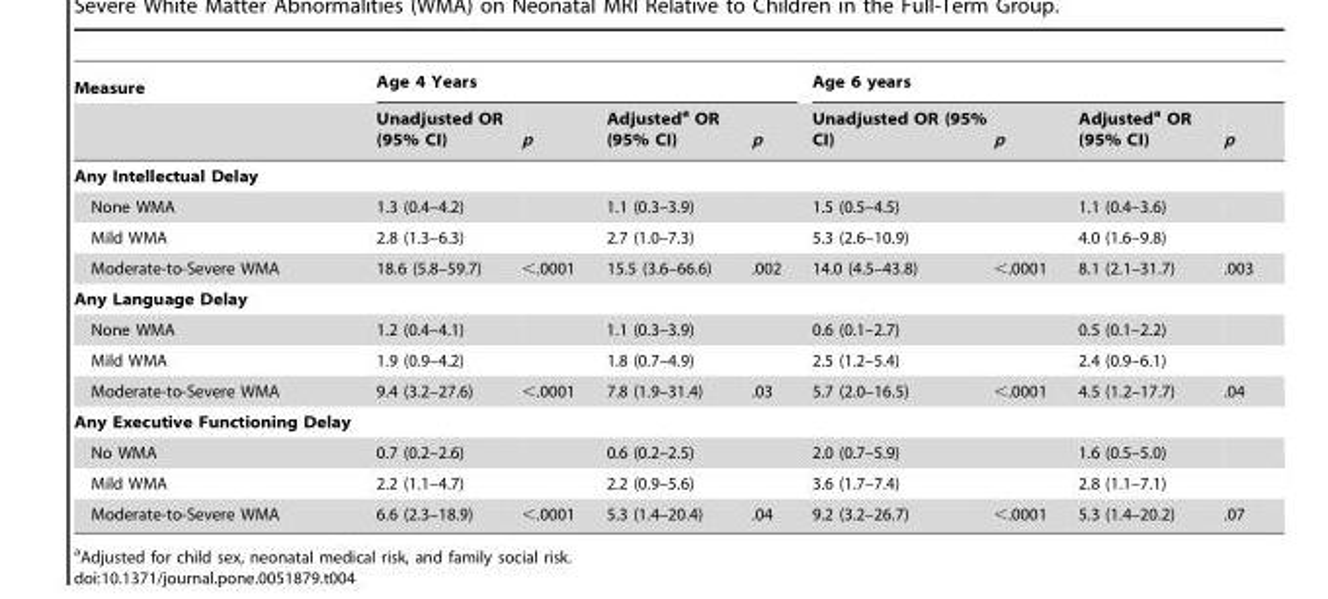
<table><thead><tr><td rowspan="2">Measure</td><td colspan="4">Age 4 Years</td><td colspan="4">Age 6 years</td></tr><tr><td>Unadjusted OR (95% CI)</td><td>p</td><td>Adjusted<sup>a</sup> OR (95% CI)</td><td>p</td><td>Unadjusted OR (95% CI)</td><td>p</td><td>Adjusted<sup>a</sup> OR (95% CI)</td><td>p</td></tr></thead><tbody><tr><td colspan="9">Any Intellectual Delay</td></tr><tr><td>None WMA</td><td>1.3 (0.4–4.2)</td><td></td><td>1.1 (0.3–3.9)</td><td></td><td>1.5 (0.5–4.5)</td><td></td><td>1.1 (0.4–3.6)</td><td></td></tr><tr><td>Mild WMA</td><td>2.8 (1.3–6.3)</td><td></td><td>2.7 (1.0–7.3)</td><td></td><td>5.3 (2.6–10.9)</td><td></td><td>4.0 (1.6–9.8)</td><td></td></tr><tr><td>Moderate-to-Severe WMA</td><td>18.6 (5.8–59.7)</td><td>&lt;.0001</td><td>15.5 (3.6–66.6)</td><td>.002</td><td>14.0 (4.5–43.8)</td><td>&lt;.0001</td><td>8.1 (2.1–31.7)</td><td>.003</td></tr><tr><td colspan="9">Any Language Delay</td></tr><tr><td>None WMA</td><td>1.2 (0.4–4.1)</td><td></td><td>1.1 (0.3–3.9)</td><td></td><td>0.6 (0.1–2.7)</td><td></td><td>0.5 (0.1–2.2)</td><td></td></tr><tr><td>Mild WMA</td><td>1.9 (0.9–4.2)</td><td></td><td>1.8 (0.7–4.9)</td><td></td><td>2.5 (1.2–5.4)</td><td></td><td>2.4 (0.9–6.1)</td><td></td></tr><tr><td>Moderate-to-Severe WMA</td><td>9.4 (3.2–27.6)</td><td>&lt;.0001</td><td>7.8 (1.9–31.4)</td><td>.03</td><td>5.7 (2.0–16.5)</td><td>&lt;.0001</td><td>4.5 (1.2–17.7)</td><td>.04</td></tr><tr><td colspan="9">Any Executive Functioning Delay</td></tr><tr><td>No WMA</td><td>0.7 (0.2–2.6)</td><td></td><td>0.6 (0.2–2.5)</td><td></td><td>2.0 (0.7–5.9)</td><td></td><td>1.6 (0.5–5.0)</td><td></td></tr><tr><td>Mild WMA</td><td>2.2 (1.1–4.7)</td><td></td><td>2.2 (0.9–5.6)</td><td></td><td>3.6 (1.7–7.4)</td><td></td><td>2.8 (1.1–7.1)</td><td></td></tr><tr><td>Moderate-to-Severe WMA</td><td>6.6 (2.3–18.9)</td><td>&lt;.0001</td><td>5.3 (1.4–20.4)</td><td>.04</td><td>9.2 (3.2–26.7)</td><td>&lt;.0001</td><td>5.3 (1.4–20.2)</td><td>.07</td></tr></tbody></table>